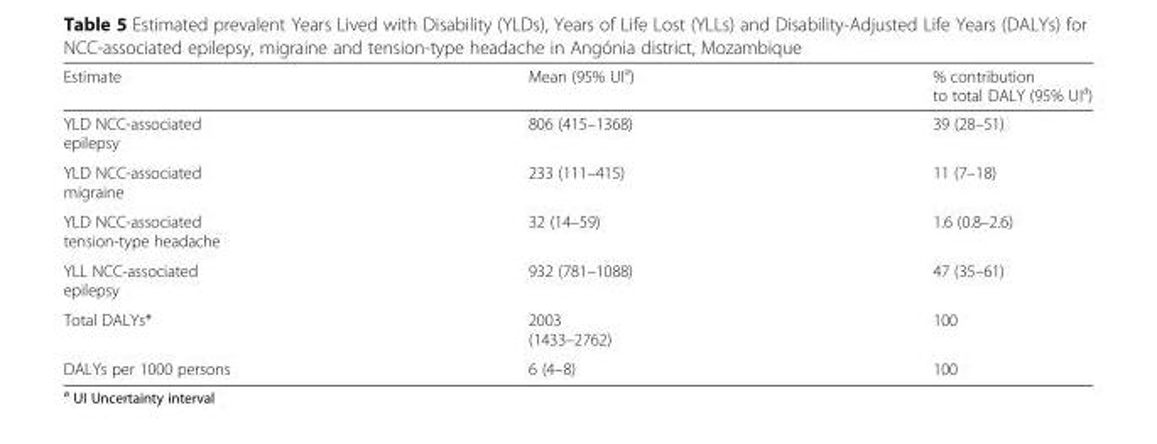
<table><thead><tr><td>Estimate</td><td>Mean (95% UI<sup>a</sup>)</td><td>% contribution to total DALY (95% UI<sup>a</sup>)</td></tr></thead><tbody><tr><td>YLD NCC-associated epilepsy</td><td>806 (415–1368)</td><td>39 (28–51)</td></tr><tr><td>YLD NCC-associated migraine</td><td>233 (111–415)</td><td>11 (7–18)</td></tr><tr><td>YLD NCC-associated tension-type headache</td><td>32 (14–59)</td><td>1.6 (0.8–2.6)</td></tr><tr><td>YLL NCC-associated epilepsy</td><td>932 (781–1088)</td><td>47 (35–61)</td></tr><tr><td>Total DALYs*</td><td>2003 (1433–2762)</td><td>100</td></tr><tr><td>DALYs per 1000 persons</td><td>6 (4–8)</td><td>100</td></tr></tbody></table>